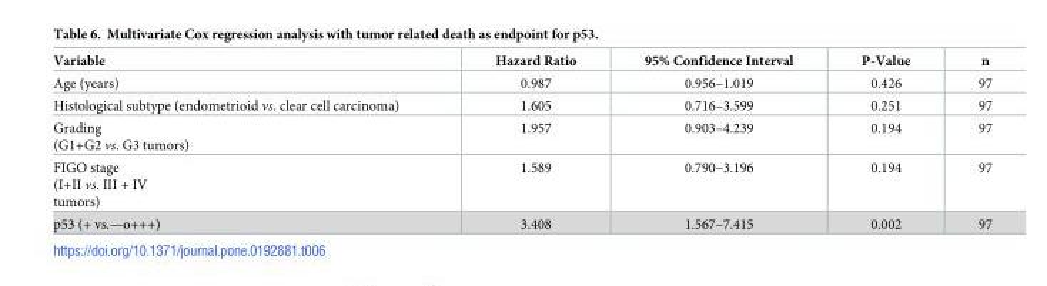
<table><thead><tr><td>Variable</td><td>Hazard Ratio</td><td>95% Confidence Interval</td><td>P-Value</td><td>n</td></tr></thead><tbody><tr><td>Age (years)</td><td>0.987</td><td>0.956–1.019</td><td>0.426</td><td>97</td></tr><tr><td>Histological subtype (endometrioid vs. clear cell carcinoma)</td><td>1.605</td><td>0.716–3.599</td><td>0.251</td><td>97</td></tr><tr><td>Grading (G1+G2 vs. G3 tumors)</td><td>1.957</td><td>0.903–4.239</td><td>0.194</td><td>97</td></tr><tr><td>FIGO stage (I+II vs. III + IV tumors)</td><td>1.589</td><td>0.790–3.196</td><td>0.194</td><td>97</td></tr><tr><td>p53 (+ vs.—o+++)</td><td>3.408</td><td>1.567–7.415</td><td>0.002</td><td>97</td></tr></tbody></table>